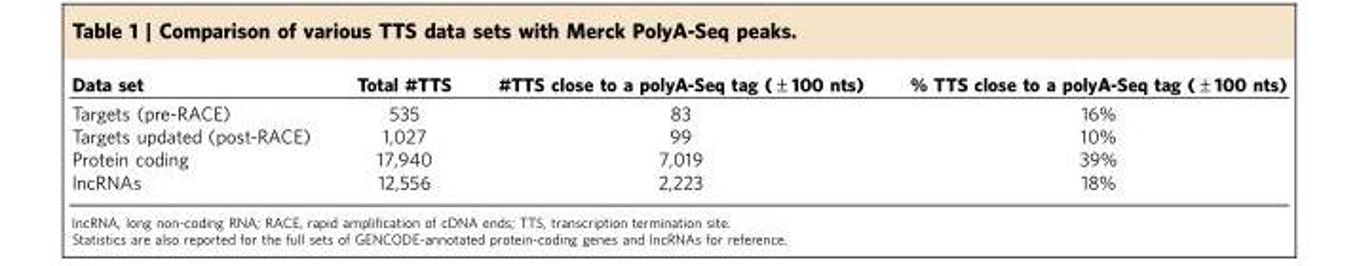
<table><thead><tr><td>Data set</td><td>Total #TTS</td><td>#TTS close to a polyA-Seq tag (±100 nts)</td><td>% TTS close to a polyA-Seq tag (±100 nts)</td></tr></thead><tbody><tr><td>Targets (pre-RACE)</td><td>535</td><td>83</td><td>16%</td></tr><tr><td>Targets updated (post-RACE)</td><td>1,027</td><td>99</td><td>10%</td></tr><tr><td>Protein coding</td><td>17,940</td><td>7,019</td><td>39%</td></tr><tr><td>lncRNAs</td><td>12,556</td><td>2,223</td><td>18%</td></tr></tbody></table>